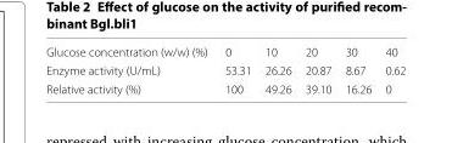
<table><tbody><tr><td>Glucose concentration (w/w) (%)</td><td>0</td><td>10</td><td>20</td><td>30</td><td>40</td></tr><tr><td>Enzyme activity (U/mL)</td><td>53.31</td><td>26.26</td><td>20.87</td><td>8.67</td><td>0.62</td></tr><tr><td>Relative activity (%)</td><td>100</td><td>49.26</td><td>39.10</td><td>16.26</td><td>0</td></tr></tbody></table>